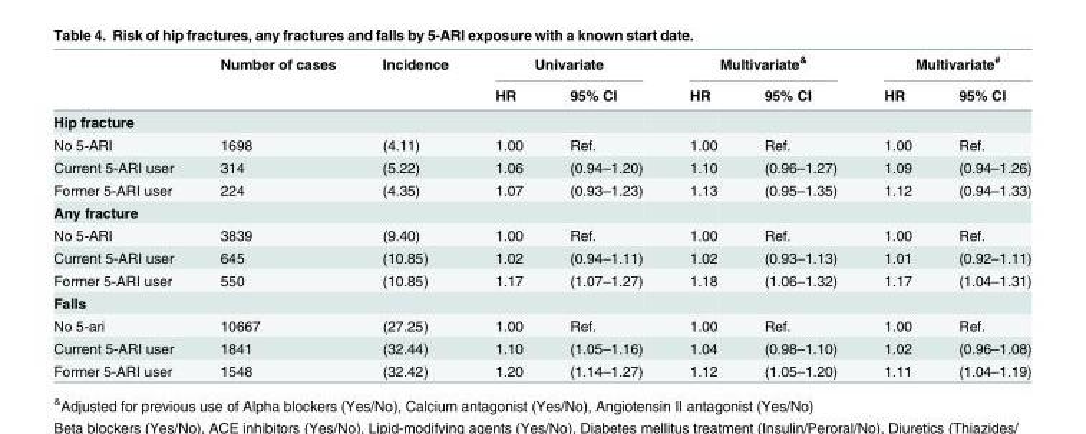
<table><thead><tr><td rowspan="2"></td><td rowspan="2">Number of cases</td><td rowspan="2">Incidence</td><td colspan="2">Univariate</td><td colspan="2">Multivariate<sup>&amp;</sup></td><td colspan="2">Multivariate<sup>#</sup></td></tr><tr><td>HR</td><td>95% CI</td><td>HR</td><td>95% CI</td><td>HR</td><td>95% CI</td></tr></thead><tbody><tr><td colspan="9">Hip fracture</td></tr><tr><td>No 5-ARI</td><td>1698</td><td>(4.11)</td><td>1.00</td><td>Ref.</td><td>1.00</td><td>Ref.</td><td>1.00</td><td>Ref.</td></tr><tr><td>Current 5-ARI user</td><td>314</td><td>(5.22)</td><td>1.06</td><td>(0.94–1.20)</td><td>1.10</td><td>(0.96–1.27)</td><td>1.09</td><td>(0.94–1.26)</td></tr><tr><td>Former 5-ARI user</td><td>224</td><td>(4.35)</td><td>1.07</td><td>(0.93–1.23)</td><td>1.13</td><td>(0.95–1.35)</td><td>1.12</td><td>(0.94–1.33)</td></tr><tr><td colspan="9">Any fracture</td></tr><tr><td>No 5-ARI</td><td>3839</td><td>(9.40)</td><td>1.00</td><td>Ref.</td><td>1.00</td><td>Ref.</td><td>1.00</td><td>Ref.</td></tr><tr><td>Current 5-ARI user</td><td>645</td><td>(10.85)</td><td>1.02</td><td>(0.94–1.11)</td><td>1.02</td><td>(0.93–1.13)</td><td>1.01</td><td>(0.92–1.11)</td></tr><tr><td>Former 5-ARI user</td><td>550</td><td>(10.85)</td><td>1.17</td><td>(1.07–1.27)</td><td>1.18</td><td>(1.06–1.32)</td><td>1.17</td><td>(1.04–1.31)</td></tr><tr><td colspan="9">Falls</td></tr><tr><td>No 5-ari</td><td>10667</td><td>(27.25)</td><td>1.00</td><td>Ref.</td><td>1.00</td><td>Ref.</td><td>1.00</td><td>Ref.</td></tr><tr><td>Current 5-ARI user</td><td>1841</td><td>(32.44)</td><td>1.10</td><td>(1.05–1.16)</td><td>1.04</td><td>(0.98–1.10)</td><td>1.02</td><td>(0.96–1.08)</td></tr><tr><td>Former 5-ARI user</td><td>1548</td><td>(32.42)</td><td>1.20</td><td>(1.14–1.27)</td><td>1.12</td><td>(1.05–1.20)</td><td>1.11</td><td>(1.04–1.19)</td></tr></tbody></table>